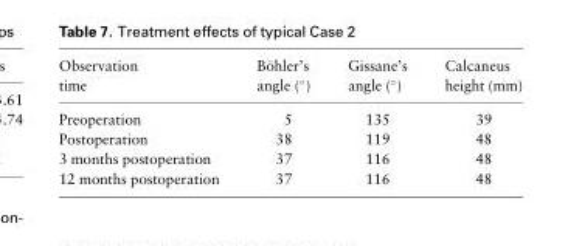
<table><thead><tr><td>Observation time</td><td>Bo¨hler’s angle (�)</td><td>Gissane’s angle (°)</td><td>Calcaneus height (mm)</td></tr></thead><tbody><tr><td>Preoperation</td><td>5</td><td>135</td><td>39</td></tr><tr><td>Postoperation</td><td>38</td><td>119</td><td>48</td></tr><tr><td>3 months postoperation</td><td>37</td><td>116</td><td>48</td></tr><tr><td>12 months postoperation</td><td>37</td><td>116</td><td>48</td></tr></tbody></table>